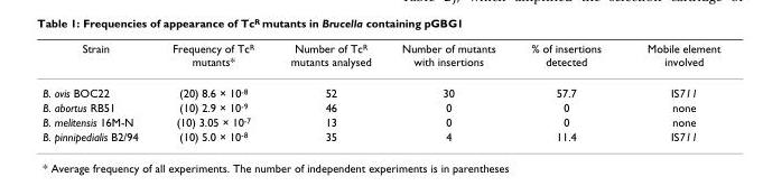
<table><thead><tr><td>Strain</td><td>Frequency of Tc<sup>R</sup> mutants*</td><td>Number of Tc<sup>R</sup> mutants analysed</td><td>Number of mutants with insertions</td><td>% of insertions detected</td><td>Mobile element involved</td></tr></thead><tbody><tr><td>B. ovis BOC22</td><td>(20) 8.6 × 10<sup>-8</sup></td><td>52</td><td>30</td><td>57.7</td><td>IS711</td></tr><tr><td>B. abortus RB51</td><td>(10) 2.9 × 10<sup>-9</sup></td><td>46</td><td>0</td><td>0</td><td>none</td></tr><tr><td>B. melitensis 16M-N</td><td>(10) 3.05 × 10<sup>-7</sup></td><td>13</td><td>0</td><td>0</td><td>none</td></tr><tr><td>B. pinnipedialis B2/94</td><td>(10) 5.0 × 10<sup>-8</sup></td><td>35</td><td>4</td><td>11.4</td><td>IS711</td></tr></tbody></table>